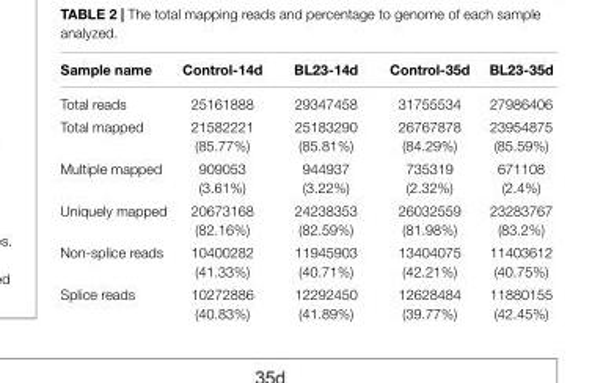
<table><thead><tr><td>Sample name</td><td>Control-14d</td><td>BL23-14d</td><td>Control-35d</td><td>BL23-35d</td></tr></thead><tbody><tr><td>Total reads</td><td>25161888</td><td>29347458</td><td>31755534</td><td>27986406</td></tr><tr><td>Total mapped</td><td>21582221 (85.77%)</td><td>25183290 (85.81%)</td><td>26767878 (84.29%)</td><td>23954875 (85.59%)</td></tr><tr><td>Multiple mapped</td><td>909053 (3.61%)</td><td>944937 (3.22%)</td><td>735319 (2.32%)</td><td>671108 (2.4%)</td></tr><tr><td>Uniquely mapped</td><td>20673168 (82.16%)</td><td>24238353 (82.59%)</td><td>26032559 (81.98%)</td><td>23283767 (83.2%)</td></tr><tr><td>Non-splice reads</td><td>10400282 (41.33%)</td><td>11945903 (40.71%)</td><td>13404075 (42.21%)</td><td>11403612 (40.75%)</td></tr><tr><td>Splice reads</td><td>10272886 (40.83%)</td><td>12292450 (41.89%)</td><td>12628484 (39.77%)</td><td>11880155 (42.45%)</td></tr></tbody></table>